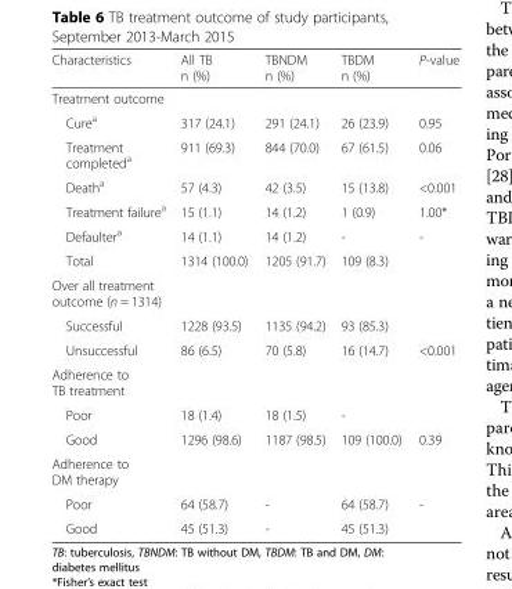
<table><thead><tr><td>Characteristics</td><td>All TB n (%)</td><td>TBNDM n (%)</td><td>TBDM n (%)</td><td>P-value</td></tr></thead><tbody><tr><td colspan="5">Treatment outcome</td></tr><tr><td>Cure<sup>a</sup></td><td>317 (24.1)</td><td>291 (24.1)</td><td>26 (23.9)</td><td>0.95</td></tr><tr><td>Treatment completed<sup>a</sup></td><td>911 (69.3)</td><td>844 (70.0)</td><td>67 (61.5)</td><td>0.06</td></tr><tr><td>Death<sup>a</sup></td><td>57 (4.3)</td><td>42 (3.5)</td><td>15 (13.8)</td><td>&lt;0.001</td></tr><tr><td>Treatment failure<sup>a</sup></td><td>15 (1.1)</td><td>14 (1.2)</td><td>1 (0.9)</td><td>1.00*</td></tr><tr><td>Defaulter<sup>a</sup></td><td>14 (1.1)</td><td>14 (1.2)</td><td>-</td><td>-</td></tr><tr><td>Total</td><td>1314 (100.0)</td><td>1205 (91.7)</td><td>109 (8.3)</td><td></td></tr><tr><td colspan="5">Over all treatment outcome (n = 1314)</td></tr><tr><td>Successful</td><td>1228 (93.5)</td><td>1135 (94.2)</td><td>93 (85.3)</td><td></td></tr><tr><td>Unsuccessful</td><td>86 (6.5)</td><td>70 (5.8)</td><td>16 (14.7)</td><td>&lt;0.001</td></tr><tr><td colspan="5">Adherence to TB treatment</td></tr><tr><td>Poor</td><td>18 (1.4)</td><td>18 (1.5)</td><td>-</td><td></td></tr><tr><td>Good</td><td>1296 (98.6)</td><td>1187 (98.5)</td><td>109 (100.0)</td><td>0.39</td></tr><tr><td colspan="5">Adherence to DM therapy</td></tr><tr><td>Poor</td><td>64 (58.7)</td><td>-</td><td>64 (58.7)</td><td>-</td></tr><tr><td>Good</td><td>45 (51.3)</td><td>-</td><td>45 (51.3)</td><td></td></tr></tbody></table>